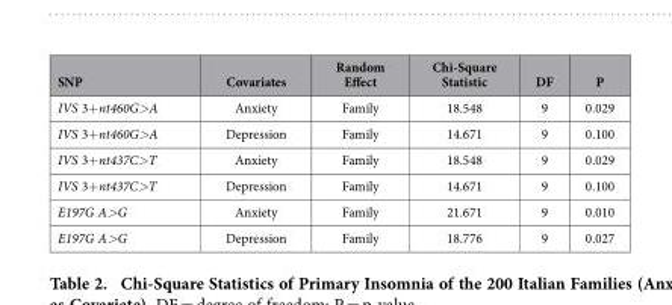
<table><thead><tr><td>SNP</td><td>Covariates</td><td>Random Effect</td><td>Chi-Square Statistic</td><td>DF</td><td>P</td></tr></thead><tbody><tr><td>IVS 3+nt460G&gt;A</td><td>Anxiety</td><td>Family</td><td>18.548</td><td>9</td><td>0.029</td></tr><tr><td>IVS 3+nt460G&gt;A</td><td>Depression</td><td>Family</td><td>14.671</td><td>9</td><td>0.100</td></tr><tr><td>IVS 3+nt437C&gt;T</td><td>Anxiety</td><td>Family</td><td>18.548</td><td>9</td><td>0.029</td></tr><tr><td>IVS 3+nt437C&gt;T</td><td>Depression</td><td>Family</td><td>14.671</td><td>9</td><td>0.100</td></tr><tr><td>E197G A&gt;G</td><td>Anxiety</td><td>Family</td><td>21.671</td><td>9</td><td>0.010</td></tr><tr><td>E197G A&gt;G</td><td>Depression</td><td>Family</td><td>18.776</td><td>9</td><td>0.027</td></tr></tbody></table>